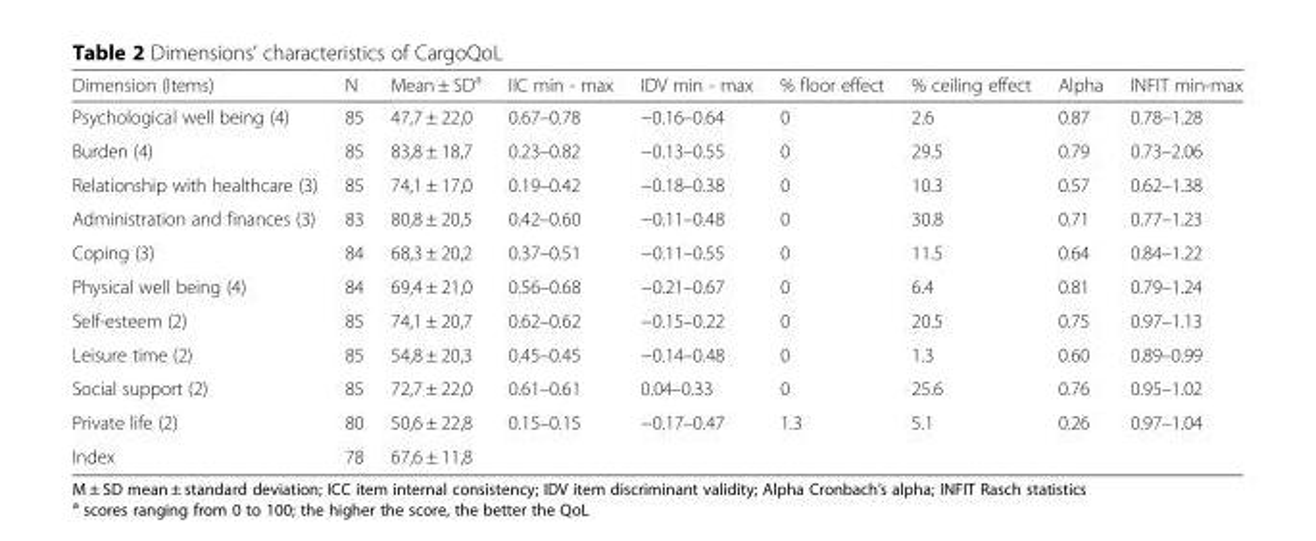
<table><thead><tr><td>Dimension (Items)</td><td>N</td><td>Mean ± SD<sup>a</sup></td><td>IIC min - max</td><td>IDV min - max</td><td>% floor effect</td><td>% ceiling effect</td><td>Alpha</td><td>INFIT min-max</td></tr></thead><tbody><tr><td>Psychological well being (4)</td><td>85</td><td>47,7 ± 22,0</td><td>0.67–0.78</td><td>−0.16–0.64</td><td>0</td><td>2.6</td><td>0.87</td><td>0.78–1.28</td></tr><tr><td>Burden (4)</td><td>85</td><td>83,8 ± 18,7</td><td>0.23–0.82</td><td>−0.13–0.55</td><td>0</td><td>29.5</td><td>0.79</td><td>0.73–2.06</td></tr><tr><td>Relationship with healthcare (3)</td><td>85</td><td>74,1 ± 17,0</td><td>0.19–0.42</td><td>−0.18–0.38</td><td>0</td><td>10.3</td><td>0.57</td><td>0.62–1.38</td></tr><tr><td>Administration and finances (3)</td><td>83</td><td>80,8 ± 20,5</td><td>0.42–0.60</td><td>−0.11–0.48</td><td>0</td><td>30.8</td><td>0.71</td><td>0.77–1.23</td></tr><tr><td>Coping (3)</td><td>84</td><td>68,3 ± 20,2</td><td>0.37–0.51</td><td>−0.11–0.55</td><td>0</td><td>11.5</td><td>0.64</td><td>0.84–1.22</td></tr><tr><td>Physical well being (4)</td><td>84</td><td>69,4 ± 21,0</td><td>0.56–0.68</td><td>−0.21–0.67</td><td>0</td><td>6.4</td><td>0.81</td><td>0.79–1.24</td></tr><tr><td>Self-esteem (2)</td><td>85</td><td>74,1 ± 20,7</td><td>0.62–0.62</td><td>−0.15–0.22</td><td>0</td><td>20.5</td><td>0.75</td><td>0.97–1.13</td></tr><tr><td>Leisure time (2)</td><td>85</td><td>54,8 ± 20,3</td><td>0.45–0.45</td><td>−0.14–0.48</td><td>0</td><td>1.3</td><td>0.60</td><td>0.89–0.99</td></tr><tr><td>Social support (2)</td><td>85</td><td>72,7 ± 22,0</td><td>0.61–0.61</td><td>0.04–0.33</td><td>0</td><td>25.6</td><td>0.76</td><td>0.95–1.02</td></tr><tr><td>Private life (2)</td><td>80</td><td>50,6 ± 22,8</td><td>0.15–0.15</td><td>−0.17–0.47</td><td>1.3</td><td>5.1</td><td>0.26</td><td>0.97–1.04</td></tr><tr><td>Index</td><td>78</td><td>67,6 ± 11,8</td><td></td><td></td><td></td><td></td><td></td><td></td></tr></tbody></table>